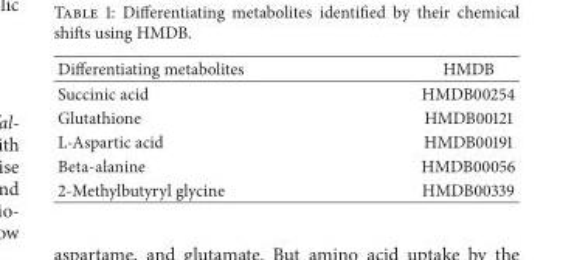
<table><thead><tr><td>Differentiating metabolites</td><td>HMDB</td></tr></thead><tbody><tr><td>Succinic acid</td><td>HMDB00254</td></tr><tr><td>Glutathione</td><td>HMDB00121</td></tr><tr><td>L-Aspartic acid</td><td>HMDB00191</td></tr><tr><td>Beta-alanine</td><td>HMDB00056</td></tr><tr><td>2-Methylbutyryl glycine</td><td>HMDB00339</td></tr></tbody></table>